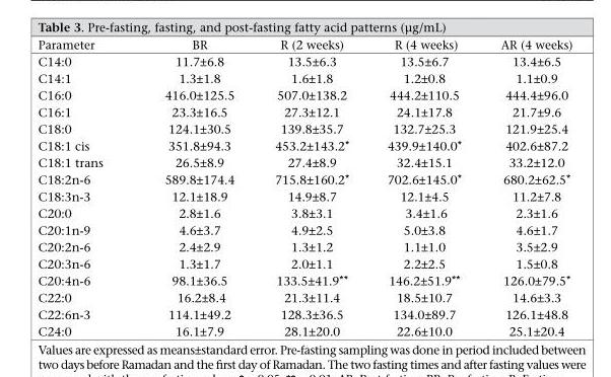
<table><thead><tr><td>Parameter</td><td>BR</td><td>R (2 weeks)</td><td>R (4 weeks)</td><td>AR (4 weeks)</td></tr></thead><tbody><tr><td>C14:0</td><td>11.7±6.8</td><td>13.5±6.3</td><td>13.5±6.7</td><td>13.4±6.5</td></tr><tr><td>C14:1</td><td>1.3±1.8</td><td>1.6±1.8</td><td>1.2±0.8</td><td>1.1±0.9</td></tr><tr><td>C16:0</td><td>416.0±125.5</td><td>507.0±138.2</td><td>444.2±110.5</td><td>444.4±96.0</td></tr><tr><td>C16:1</td><td>23.3±16.5</td><td>27.3±12.1</td><td>24.1±17.8</td><td>21.7±9.6</td></tr><tr><td>C18:0</td><td>124.1±30.5</td><td>139.8±35.7</td><td>132.7±25.3</td><td>121.9±25.4</td></tr><tr><td>C18:1 cis</td><td>351.8±94.3</td><td>453.2±143.2*</td><td>439.9±140.0*</td><td>402.6±87.2</td></tr><tr><td>C18:1 trans</td><td>26.5±8.9</td><td>27.4±8.9</td><td>32.4±15.1</td><td>33.2±12.0</td></tr><tr><td>C18:2n-6</td><td>589.8±174.4</td><td>715.8±160.2*</td><td>702.6±145.0*</td><td>680.2±62.5*</td></tr><tr><td>C18:3n-3</td><td>12.1±18.9</td><td>14.9±8.7</td><td>12.1±4.5</td><td>11.2±7.8</td></tr><tr><td>C20:0</td><td>2.8±1.6</td><td>3.8±3.1</td><td>3.4±1.6</td><td>2.3±1.6</td></tr><tr><td>C20:1n-9</td><td>4.6±3.7</td><td>4.9±2.5</td><td>5.0±3.8</td><td>4.6±1.7</td></tr><tr><td>C20:2n-6</td><td>2.4±2.9</td><td>1.3±1.2</td><td>1.1±1.0</td><td>3.5±2.9</td></tr><tr><td>C20:3n-6</td><td>1.3±1.7</td><td>2.0±1.1</td><td>2.2±2.5</td><td>1.5±0.8</td></tr><tr><td>C20:4n-6</td><td>98.1±36.5</td><td>133.5±41.9**</td><td>146.2±51.9**</td><td>126.0±79.5*</td></tr><tr><td>C22:0</td><td>16.2±8.4</td><td>21.3±11.4</td><td>18.5±10.7</td><td>14.6±3.3</td></tr><tr><td>C22:6n-3</td><td>114.1±49.2</td><td>128.3±36.5</td><td>134.0±89.7</td><td>126.1±48.8</td></tr><tr><td>C24:0</td><td>16.1±7.9</td><td>28.1±20.0</td><td>22.6±10.0</td><td>25.1±20.4</td></tr></tbody></table>